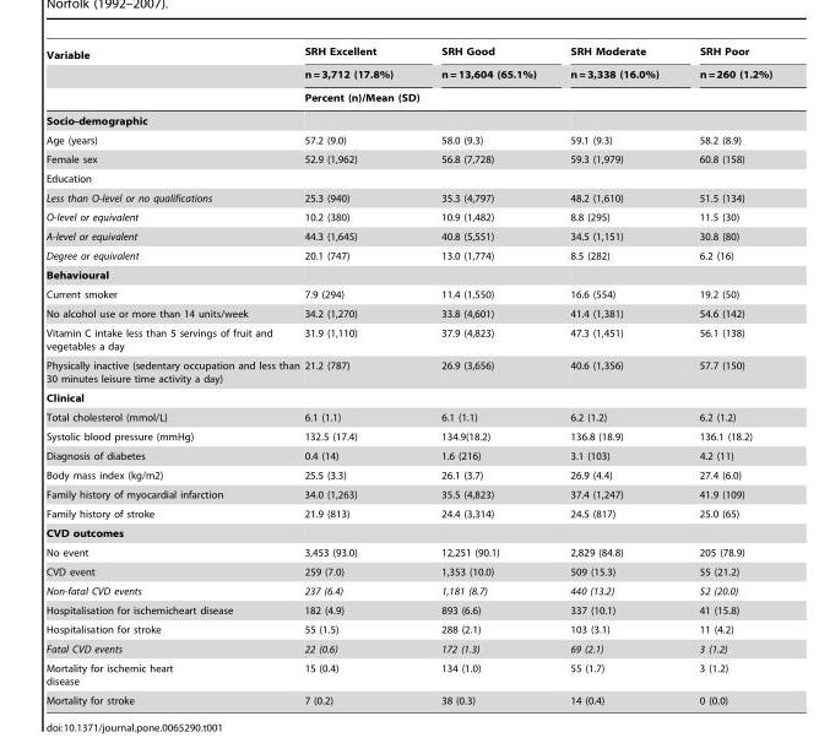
<table><thead><tr><td rowspan="3">Variable</td><td rowspan="2">SRH Excellent n = 3,712 (17.8%)</td><td rowspan="2">SRH Good n = 13,604 (65.1%)</td><td rowspan="2">SRH Moderate n = 3,338 (16.0%)</td><td rowspan="2">SRH Poor n = 260 (1.2%)</td></tr><tr></tr><tr><td colspan="4">Percent (n)/Mean (SD)</td></tr></thead><tbody><tr><td colspan="5">Socio-demographic</td></tr><tr><td>Age (years)</td><td>57.2 (9.0)</td><td>58.0 (9.3)</td><td>59.1 (9.3)</td><td>58.2 (8.9)</td></tr><tr><td>Female sex</td><td>52.9 (1,962)</td><td>56.8 (7,728)</td><td>59.3 (1,979)</td><td>60.8 (158)</td></tr><tr><td colspan="5">Education</td></tr><tr><td>Less than O-level or no qualifications</td><td>25.3 (940)</td><td>35.3 (4,797)</td><td>48.2 (1,610)</td><td>51.5 (134)</td></tr><tr><td>O-level or equivalent</td><td>10.2 (380)</td><td>10.9 (1,482)</td><td>8.8 (295)</td><td>11.5 (30)</td></tr><tr><td>A-level or equivalent</td><td>44.3 (1,645)</td><td>40.8 (5,551)</td><td>34.5 (1,151)</td><td>30.8 (80)</td></tr><tr><td>Degree or equivalent</td><td>20.1 (747)</td><td>13.0 (1,774)</td><td>8.5 (282)</td><td>6.2 (16)</td></tr><tr><td colspan="5">Behavioural</td></tr><tr><td>Current smoker</td><td>7.9 (294)</td><td>11.4 (1,550)</td><td>16.6 (554)</td><td>19.2 (50)</td></tr><tr><td>No alcohol use or more than 14 units/week</td><td>34.2 (1,270)</td><td>33.8 (4,601)</td><td>41.4 (1,381)</td><td>54.6 (142)</td></tr><tr><td>Vitamin C intake less than 5 servings of fruit and vegetables a day</td><td>31.9 (1,110)</td><td>37.9 (4,823)</td><td>47.3 (1,451)</td><td>56.1 (138)</td></tr><tr><td>Physically inactive (sedentary occupation and less than 30 minutes leisure time activity a day)</td><td>21.2 (787)</td><td>26.9 (3,656)</td><td>40.6 (1,356)</td><td>57.7 (150)</td></tr><tr><td colspan="5">Clinical</td></tr><tr><td>Total cholesterol (mmol/L)</td><td>6.1 (1.1)</td><td>6.1 (1.1)</td><td>6.2 (1.2)</td><td>6.2 (1.2)</td></tr><tr><td>Systolic blood pressure (mmHg)</td><td>132.5 (17.4)</td><td>134.9(18.2)</td><td>136.8 (18.9)</td><td>136.1 (18.2)</td></tr><tr><td>Diagnosis of diabetes</td><td>0.4 (14)</td><td>1.6 (216)</td><td>3.1 (103)</td><td>4.2 (11)</td></tr><tr><td>Body mass index (kg/m2)</td><td>25.5 (3.3)</td><td>26.1 (3.7)</td><td>26.9 (4.4)</td><td>27.4 (6.0)</td></tr><tr><td>Family history of myocardial infarction</td><td>34.0 (1,263)</td><td>35.5 (4,823)</td><td>37.4 (1,247)</td><td>41.9 (109)</td></tr><tr><td>Family history of stroke</td><td>21.9 (813)</td><td>24.4 (3,314)</td><td>24.5 (817)</td><td>25.0 (65)</td></tr><tr><td colspan="5">CVD outcomes</td></tr><tr><td>No event</td><td>3,453 (93.0)</td><td>12,251 (90.1)</td><td>2,829 (84.8)</td><td>205 (78.9)</td></tr><tr><td>CVD event</td><td>259 (7.0)</td><td>1,353 (10.0)</td><td>509 (15.3)</td><td>55 (21.2)</td></tr><tr><td>Non-fatal CVD events</td><td>237 (6.4)</td><td>1,181 (8.7)</td><td>440 (13.2)</td><td>52 (20.0)</td></tr><tr><td>Hospitalisation for ischemicheart disease</td><td>182 (4.9)</td><td>893 (6.6)</td><td>337 (10.1)</td><td>41 (15.8)</td></tr><tr><td>Hospitalisation for stroke</td><td>55 (1.5)</td><td>288 (2.1)</td><td>103 (3.1)</td><td>11 (4.2)</td></tr><tr><td>Fatal CVD events</td><td>22 (0.6)</td><td>172 (1.3)</td><td>69 (2.1)</td><td>3 (1.2)</td></tr><tr><td>Mortality for ischemic heart disease</td><td>15 (0.4)</td><td>134 (1.0)</td><td>55 (1.7)</td><td>3 (1.2)</td></tr><tr><td>Mortality for stroke</td><td>7 (0.2)</td><td>38 (0.3)</td><td>14 (0.4)</td><td>0 (0.0)</td></tr></tbody></table>